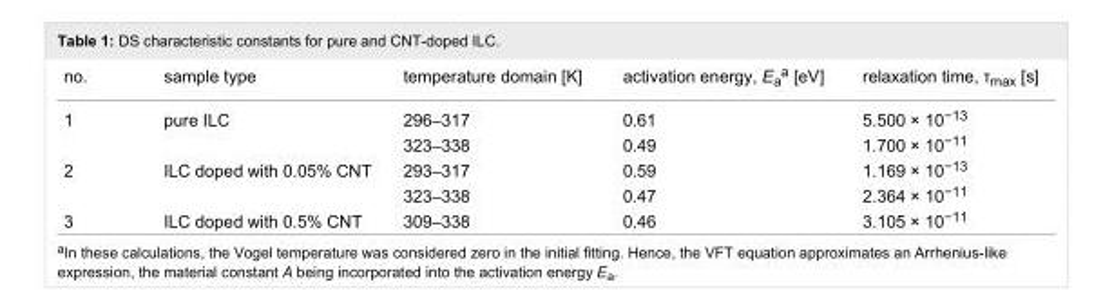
<table><tbody><tr><td>no.</td><td>sample type</td><td>temperature domain [K]</td><td>activation energy, E<sub>a</sub><sup>a</sup> [eV]</td><td>relaxation time, τ<sub>max</sub> [s]</td></tr><tr><td rowspan="2">1</td><td rowspan="2">pure ILC</td><td>296–317</td><td>0.61</td><td>5.500 × 10<sup>−13</sup></td></tr><tr><td>323–338</td><td>0.49</td><td>1.700 × 10<sup>−11</sup></td></tr><tr><td rowspan="2">2</td><td rowspan="2">ILC doped with 0.05% CNT</td><td>293–317</td><td>0.59</td><td>1.169 × 10<sup>−13</sup></td></tr><tr><td>323–338</td><td>0.47</td><td>2.364 × 10<sup>−11</sup></td></tr><tr><td>3</td><td>ILC doped with 0.5% CNT</td><td>309–338</td><td>0.46</td><td>3.105 × 10<sup>−11</sup></td></tr></tbody></table>